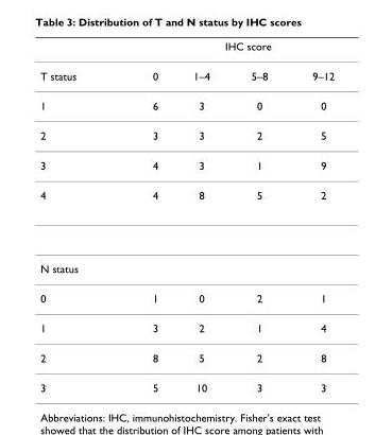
<table><thead><tr><td rowspan="2">T status</td><td colspan="4">IHC score</td></tr><tr><td>0</td><td>1–4</td><td>5–8</td><td>9–12</td></tr></thead><tbody><tr><td>1</td><td>6</td><td>3</td><td>0</td><td>0</td></tr><tr><td>2</td><td>3</td><td>3</td><td>2</td><td>5</td></tr><tr><td>3</td><td>4</td><td>3</td><td>1</td><td>9</td></tr><tr><td>4</td><td>4</td><td>8</td><td>5</td><td>2</td></tr><tr><td colspan="5">N status</td></tr><tr><td>0</td><td>1</td><td>0</td><td>2</td><td>1</td></tr><tr><td>1</td><td>3</td><td>2</td><td>1</td><td>4</td></tr><tr><td>2</td><td>8</td><td>5</td><td>2</td><td>8</td></tr><tr><td>3</td><td>5</td><td>10</td><td>3</td><td>3</td></tr></tbody></table>